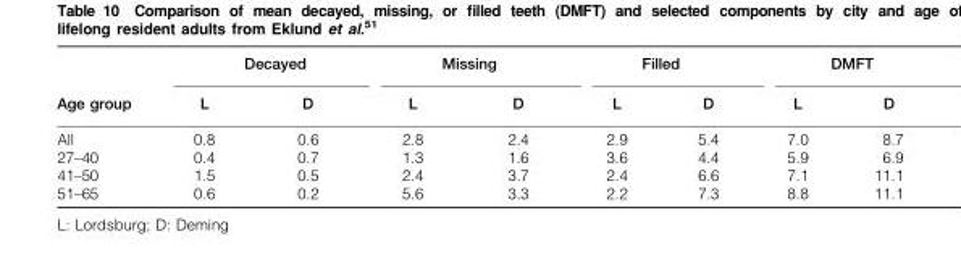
<table><thead><tr><td rowspan="2">Age group</td><td colspan="2">Decayed</td><td colspan="2">Missing</td><td colspan="2">Filled</td><td colspan="2">DMFT</td></tr><tr><td>L</td><td>D</td><td>L</td><td>D</td><td>L</td><td>D</td><td>L</td><td>D</td></tr></thead><tbody><tr><td>All</td><td>0.8</td><td>0.6</td><td>2.8</td><td>2.4</td><td>2.9</td><td>5.4</td><td>7.0</td><td>8.7</td></tr><tr><td>27–40</td><td>0.4</td><td>0.7</td><td>1.3</td><td>1.6</td><td>3.6</td><td>4.4</td><td>5.9</td><td>6.9</td></tr><tr><td>41–50</td><td>1.5</td><td>0.5</td><td>2.4</td><td>3.7</td><td>2.4</td><td>6.6</td><td>7.1</td><td>11.1</td></tr><tr><td>51–65</td><td>0.6</td><td>0.2</td><td>5.6</td><td>3.3</td><td>2.2</td><td>7.3</td><td>8.8</td><td>11.1</td></tr></tbody></table>